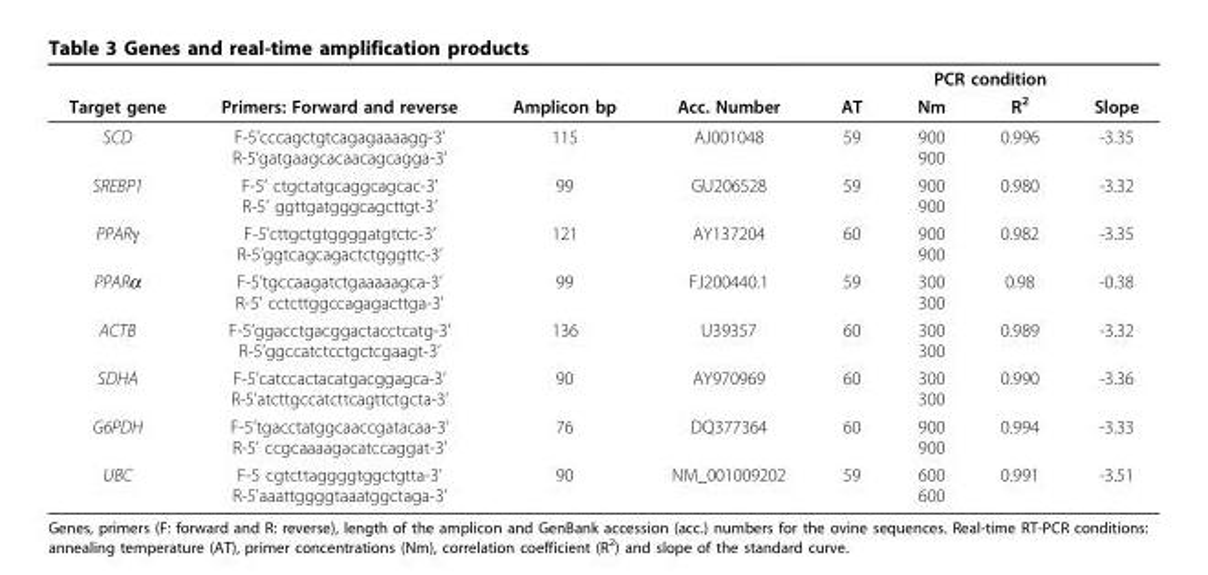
<table><thead><tr><td rowspan="2">Target gene</td><td rowspan="2">Primers: Forward and reverse</td><td rowspan="2">Amplicon bp</td><td rowspan="2">Acc. Number</td><td colspan="4">PCR condition</td></tr><tr><td>AT</td><td>Nm</td><td>R<sup>2</sup></td><td>Slope</td></tr></thead><tbody><tr><td>SCD</td><td>F-5’cccagctgtcagagaaaagg-3’ R-5’gatgaagcacaacagcagga-3’</td><td>115</td><td>AJ001048</td><td>59</td><td>900 900</td><td>0.996</td><td>-3.35</td></tr><tr><td>SREBP1</td><td>F-5’ ctgctatgcaggcagcac-3’ R-5’ ggttgatgggcagcttgt-3’</td><td>99</td><td>GU206528</td><td>59</td><td>900 900</td><td>0.980</td><td>-3.32</td></tr><tr><td>PPARγ</td><td>F-5’cttgctgtggggatgtctc-3’ R-5’ggtcagcagactctgggttc-3’</td><td>121</td><td>AY137204</td><td>60</td><td>900 900</td><td>0.982</td><td>-3.35</td></tr><tr><td>PPARα</td><td>F-5’tgccaagatctgaaaaagca-3’ R-5’ cctcttggccagagacttga-3’</td><td>99</td><td>FJ200440.1</td><td>59</td><td>300 300</td><td>0.98</td><td>-0.38</td></tr><tr><td>ACTB</td><td>F-5’ggacctgacggactacctcatg-3’ R-5’ggccatctcctgctcgaagt-3’</td><td>136</td><td>U39357</td><td>60</td><td>300 300</td><td>0.989</td><td>-3.32</td></tr><tr><td>SDHA</td><td>F-5’catccactacatgacggagca-3’ R-5’atcttgccatcttcagttctgcta-3’</td><td>90</td><td>AY970969</td><td>60</td><td>300 300</td><td>0.990</td><td>-3.36</td></tr><tr><td>G6PDH</td><td>F-5’tgacctatggcaaccgatacaa-3’ R-5’ ccgcaaaagacatccaggat-3’</td><td>76</td><td>DQ377364</td><td>60</td><td>900 900</td><td>0.994</td><td>-3.33</td></tr><tr><td>UBC</td><td>F-5 cgtcttaggggtggctgtta-3’ R-5’aaattggggtaaatggctaga-3’</td><td>90</td><td>NM_001009202</td><td>59</td><td>600 600</td><td>0.991</td><td>-3.51</td></tr></tbody></table>